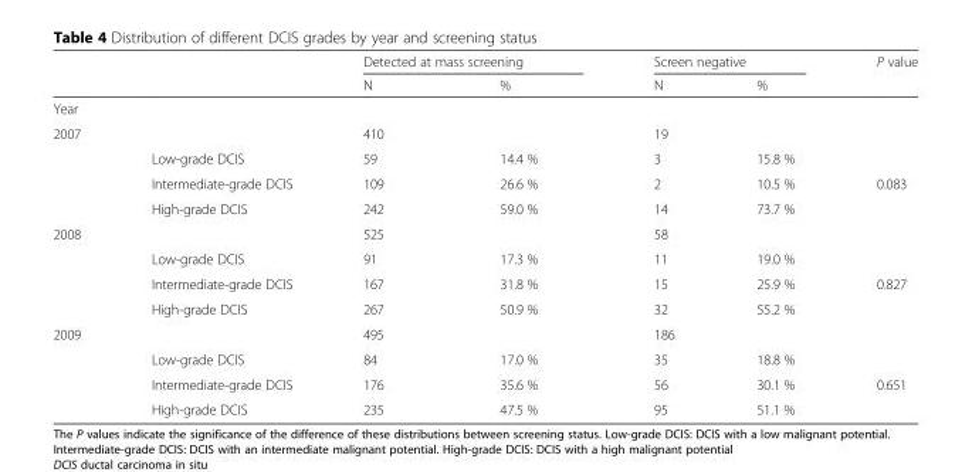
<table><thead><tr><td rowspan="2"></td><td rowspan="2"></td><td colspan="2">Detected at mass screening</td><td colspan="2">Screen negative</td><td rowspan="2">P value</td></tr><tr><td>N</td><td>%</td><td>N</td><td>%</td></tr></thead><tbody><tr><td colspan="7">Year</td></tr><tr><td rowspan="4">2007</td><td></td><td>410</td><td></td><td>19</td><td></td><td></td></tr><tr><td>Low-grade DCIS</td><td>59</td><td>14.4 %</td><td>3</td><td>15.8 %</td><td></td></tr><tr><td>Intermediate-grade DCIS</td><td>109</td><td>26.6 %</td><td>2</td><td>10.5 %</td><td>0.083</td></tr><tr><td>High-grade DCIS</td><td>242</td><td>59.0 %</td><td>14</td><td>73.7 %</td><td></td></tr><tr><td rowspan="4">2008</td><td></td><td>525</td><td></td><td>58</td><td></td><td></td></tr><tr><td>Low-grade DCIS</td><td>91</td><td>17.3 %</td><td>11</td><td>19.0 %</td><td></td></tr><tr><td>Intermediate-grade DCIS</td><td>167</td><td>31.8 %</td><td>15</td><td>25.9 %</td><td>0.827</td></tr><tr><td>High-grade DCIS</td><td>267</td><td>50.9 %</td><td>32</td><td>55.2 %</td><td></td></tr><tr><td rowspan="4">2009</td><td></td><td>495</td><td></td><td>186</td><td></td><td></td></tr><tr><td>Low-grade DCIS</td><td>84</td><td>17.0 %</td><td>35</td><td>18.8 %</td><td></td></tr><tr><td>Intermediate-grade DCIS</td><td>176</td><td>35.6 %</td><td>56</td><td>30.1 %</td><td>0.651</td></tr><tr><td>High-grade DCIS</td><td>235</td><td>47.5 %</td><td>95</td><td>51.1 %</td><td></td></tr></tbody></table>